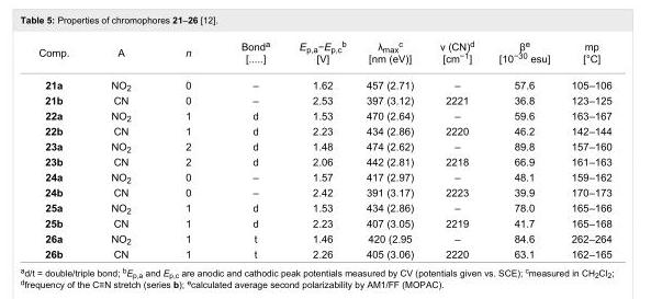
<table><tbody><tr><td>Comp.</td><td>A</td><td>n</td><td>Bond<sup>a</sup> [.....]</td><td>E<sub>p,a</sub>−E<sub>p,c</sub><sup>b</sup> [V]</td><td>λ<sub>max</sub><sup>c</sup> [nm (eV)]</td><td>ν (CN)<sup>d</sup> [cm<sup>−1</sup>]</td><td>β<sup>e</sup> [10<sup>−30</sup> esu]</td><td>mp [°C]</td></tr><tr><td>21a</td><td>NO<sub>2</sub></td><td>0</td><td>–</td><td>1.62</td><td>457 (2.71)</td><td>–</td><td>57.6</td><td>105–106</td></tr><tr><td>21b</td><td>CN</td><td>0</td><td>–</td><td>2.53</td><td>397 (3.12)</td><td>2221</td><td>36.8</td><td>123–125</td></tr><tr><td>22a</td><td>NO<sub>2</sub></td><td>1</td><td>d</td><td>1.53</td><td>470 (2.64)</td><td>–</td><td>59.6</td><td>163–167</td></tr><tr><td>22b</td><td>CN</td><td>1</td><td>d</td><td>2.23</td><td>434 (2.86)</td><td>2220</td><td>46.2</td><td>142–144</td></tr><tr><td>23a</td><td>NO<sub>2</sub></td><td>2</td><td>d</td><td>1.48</td><td>474 (2.62)</td><td>–</td><td>89.8</td><td>157–160</td></tr><tr><td>23b</td><td>CN</td><td>2</td><td>d</td><td>2.06</td><td>442 (2.81)</td><td>2218</td><td>66.9</td><td>161–163</td></tr><tr><td>24a</td><td>NO<sub>2</sub></td><td>0</td><td>–</td><td>1.57</td><td>417 (2.97)</td><td>–</td><td>48.1</td><td>159–162</td></tr><tr><td>24b</td><td>CN</td><td>0</td><td>–</td><td>2.42</td><td>391 (3.17)</td><td>2223</td><td>39.9</td><td>170–173</td></tr><tr><td>25a</td><td>NO<sub>2</sub></td><td>1</td><td>d</td><td>1.53</td><td>434 (2.86)</td><td>–</td><td>78.0</td><td>165–166</td></tr><tr><td>25b</td><td>CN</td><td>1</td><td>d</td><td>2.23</td><td>407 (3.05)</td><td>2219</td><td>41.7</td><td>165–168</td></tr><tr><td>26a</td><td>NO<sub>2</sub></td><td>1</td><td>t</td><td>1.46</td><td>420 (2.95</td><td>–</td><td>84.6</td><td>262–264</td></tr><tr><td>26b</td><td>CN</td><td>1</td><td>t</td><td>2.26</td><td>405 (3.06)</td><td>2220</td><td>63.1</td><td>162–165</td></tr></tbody></table>